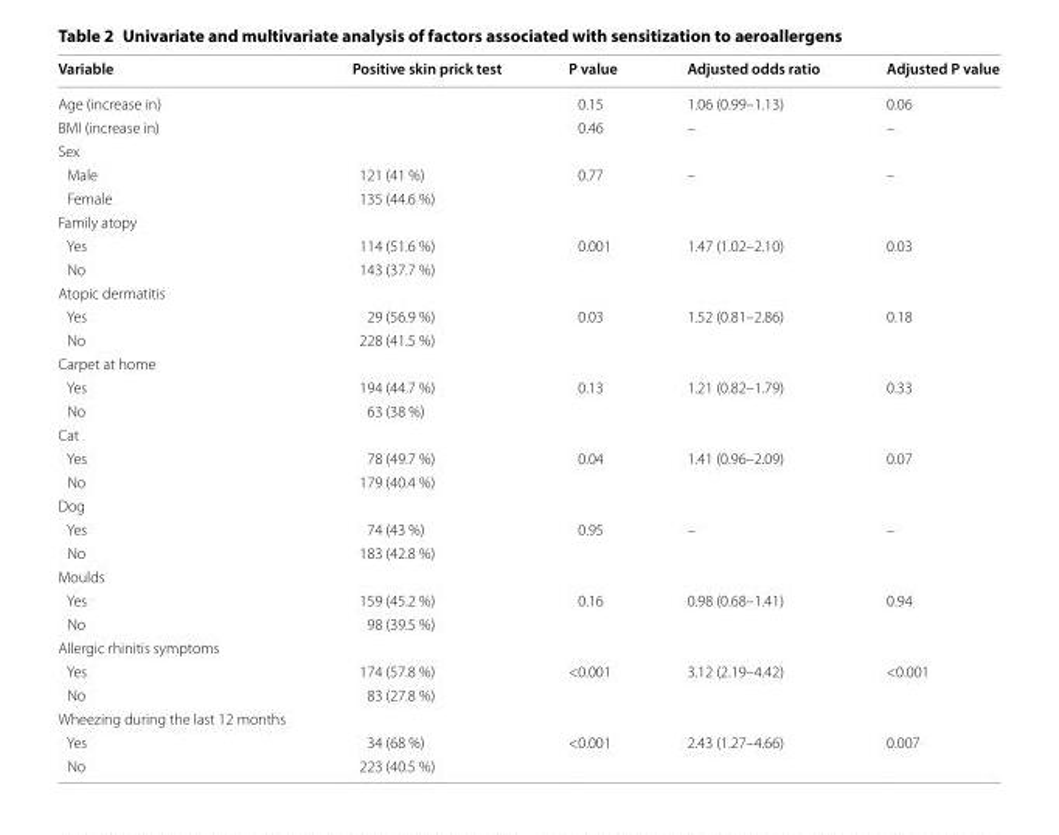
<table><thead><tr><td>Variable</td><td>Positive skin prick test</td><td>P value</td><td>Adjusted odds ratio</td><td>Adjusted P value</td></tr></thead><tbody><tr><td>Age (increase in)</td><td></td><td>0.15</td><td>1.06 (0.99–1.13)</td><td>0.06</td></tr><tr><td>BMI (increase in)</td><td></td><td>0.46</td><td>–</td><td>–</td></tr><tr><td colspan="5">Sex</td></tr><tr><td>Male</td><td>121 (41 %)</td><td>0.77</td><td>–</td><td>–</td></tr><tr><td>Female</td><td>135 (44.6 %)</td><td></td><td></td><td></td></tr><tr><td colspan="5">Family atopy</td></tr><tr><td>Yes</td><td>114 (51.6 %)</td><td>0.001</td><td>1.47 (1.02–2.10)</td><td>0.03</td></tr><tr><td>No</td><td>143 (37.7 %)</td><td></td><td></td><td></td></tr><tr><td colspan="5">Atopic dermatitis</td></tr><tr><td>Yes</td><td>29 (56.9 %)</td><td>0.03</td><td>1.52 (0.81–2.86)</td><td>0.18</td></tr><tr><td>No</td><td>228 (41.5 %)</td><td></td><td></td><td></td></tr><tr><td colspan="5">Carpet at home</td></tr><tr><td>Yes</td><td>194 (44.7 %)</td><td>0.13</td><td>1.21 (0.82–1.79)</td><td>0.33</td></tr><tr><td>No</td><td>63 (38 %)</td><td></td><td></td><td></td></tr><tr><td colspan="5">Cat</td></tr><tr><td>Yes</td><td>78 (49.7 %)</td><td>0.04</td><td>1.41 (0.96–2.09)</td><td>0.07</td></tr><tr><td>No</td><td>179 (40.4 %)</td><td></td><td></td><td></td></tr><tr><td colspan="5">Dog</td></tr><tr><td>Yes</td><td>74 (43 %)</td><td>0.95</td><td>–</td><td>–</td></tr><tr><td>No</td><td>183 (42.8 %)</td><td></td><td></td><td></td></tr><tr><td colspan="5">Moulds</td></tr><tr><td>Yes</td><td>159 (45.2 %)</td><td>0.16</td><td>0.98 (0.68–1.41)</td><td>0.94</td></tr><tr><td>No</td><td>98 (39.5 %)</td><td></td><td></td><td></td></tr><tr><td colspan="5">Allergic rhinitis symptoms</td></tr><tr><td>Yes</td><td>174 (57.8 %)</td><td>&lt;0.001</td><td>3.12 (2.19–4.42)</td><td>&lt;0.001</td></tr><tr><td>No</td><td>83 (27.8 %)</td><td></td><td></td><td></td></tr><tr><td colspan="5">Wheezing during the last 12 months</td></tr><tr><td>Yes</td><td>34 (68 %)</td><td>&lt;0.001</td><td>2.43 (1.27–4.66)</td><td>0.007</td></tr><tr><td>No</td><td>223 (40.5 %)</td><td></td><td></td><td></td></tr></tbody></table>